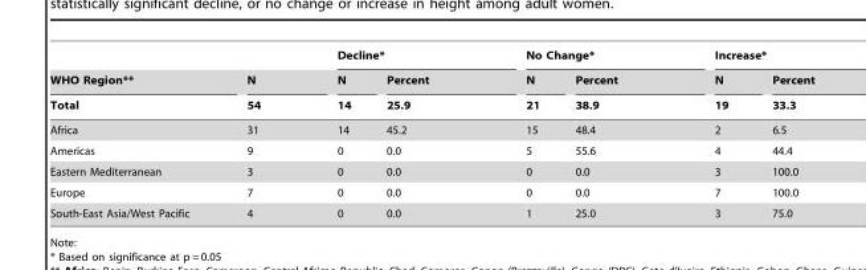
<table><thead><tr><td rowspan="3">WHO Region** Total</td><td rowspan="3">N 54</td><td colspan="2">Decline*</td><td colspan="2">No Change*</td><td colspan="2">Increase*</td></tr><tr><td rowspan="2">N 14</td><td rowspan="2">Percent 25.9</td><td rowspan="2">N 21</td><td rowspan="2">Percent 38.9</td><td rowspan="2">N 19</td><td rowspan="2">Percent 33.3</td></tr><tr></tr></thead><tbody><tr><td>Africa</td><td>31</td><td>14</td><td>45.2</td><td>15</td><td>48.4</td><td>2</td><td>6.5</td></tr><tr><td>Americas</td><td>9</td><td>0</td><td>0.0</td><td>5</td><td>55.6</td><td>4</td><td>44.4</td></tr><tr><td>Eastern Mediterranean</td><td>3</td><td>0</td><td>0.0</td><td>0</td><td>0.0</td><td>3</td><td>100.0</td></tr><tr><td>Europe</td><td>7</td><td>0</td><td>0.0</td><td>0</td><td>0.0</td><td>7</td><td>100.0</td></tr><tr><td>South-East Asia/West Pacific</td><td>4</td><td>0</td><td>0.0</td><td>1</td><td>25.0</td><td>3</td><td>75.0</td></tr></tbody></table>